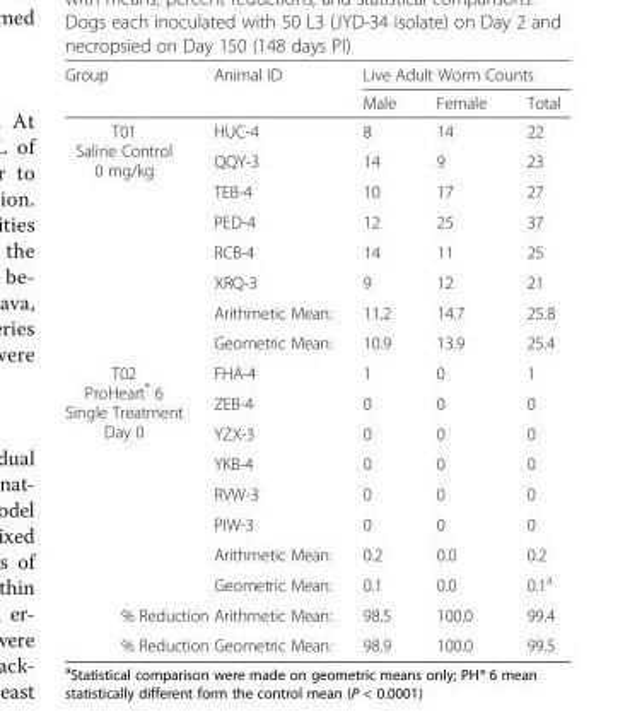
<table><thead><tr><td rowspan="2">Group</td><td rowspan="2">Animal ID</td><td colspan="3">Live Adult Worm Counts</td></tr><tr><td>Male</td><td>Female</td><td>Total</td></tr></thead><tbody><tr><td rowspan="8">T01 Saline Control 0 mg/kg</td><td>HUC-4</td><td>8</td><td>14</td><td>22</td></tr><tr><td>QQY-3</td><td>14</td><td>9</td><td>23</td></tr><tr><td>TEB-4</td><td>10</td><td>17</td><td>27</td></tr><tr><td>PED-4</td><td>12</td><td>25</td><td>37</td></tr><tr><td>RCB-4</td><td>14</td><td>11</td><td>25</td></tr><tr><td>XRQ-3</td><td>9</td><td>12</td><td>21</td></tr><tr><td>Arithmetic Mean:</td><td>11.2</td><td>14.7</td><td>25.8</td></tr><tr><td>Geometric Mean:</td><td>10.9</td><td>13.9</td><td>25.4</td></tr><tr><td rowspan="8">T02 ProHeart<sup>®</sup> 6 Single Treatment Day 0</td><td>FHA-4</td><td>1</td><td>0</td><td>1</td></tr><tr><td>ZEB-4</td><td>0</td><td>0</td><td>0</td></tr><tr><td>YZX-3</td><td>0</td><td>0</td><td>0</td></tr><tr><td>YKB-4</td><td>0</td><td>0</td><td>0</td></tr><tr><td>RVW-3</td><td>0</td><td>0</td><td>0</td></tr><tr><td>PIW-3</td><td>0</td><td>0</td><td>0</td></tr><tr><td>Arithmetic Mean:</td><td>0.2</td><td>0.0</td><td>0.2</td></tr><tr><td>Geometric Mean:</td><td>0.1</td><td>0.0</td><td>0.1<sup>a</sup></td></tr><tr><td colspan="2">% Reduction Arithmetic Mean:</td><td>98.5</td><td>100.0</td><td>99.4</td></tr><tr><td colspan="2">% Reduction Geometric Mean:</td><td>98.9</td><td>100.0</td><td>99.5</td></tr></tbody></table>